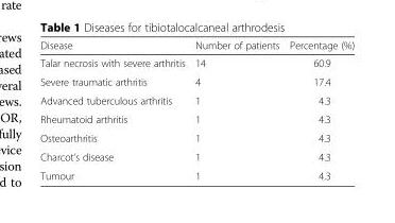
<table><thead><tr><td>Disease</td><td>Number of patients</td><td>Percentage (%)</td></tr></thead><tbody><tr><td>Talar necrosis with severe arthritis</td><td>14</td><td>60.9</td></tr><tr><td>Severe traumatic arthritis</td><td>4</td><td>17.4</td></tr><tr><td>Advanced tuberculous arthritis</td><td>1</td><td>4.3</td></tr><tr><td>Rheumatoid arthritis</td><td>1</td><td>4.3</td></tr><tr><td>Osteoarthritis</td><td>1</td><td>4.3</td></tr><tr><td>Charcot’s disease</td><td>1</td><td>4.3</td></tr><tr><td>Tumour</td><td>1</td><td>4.3</td></tr></tbody></table>